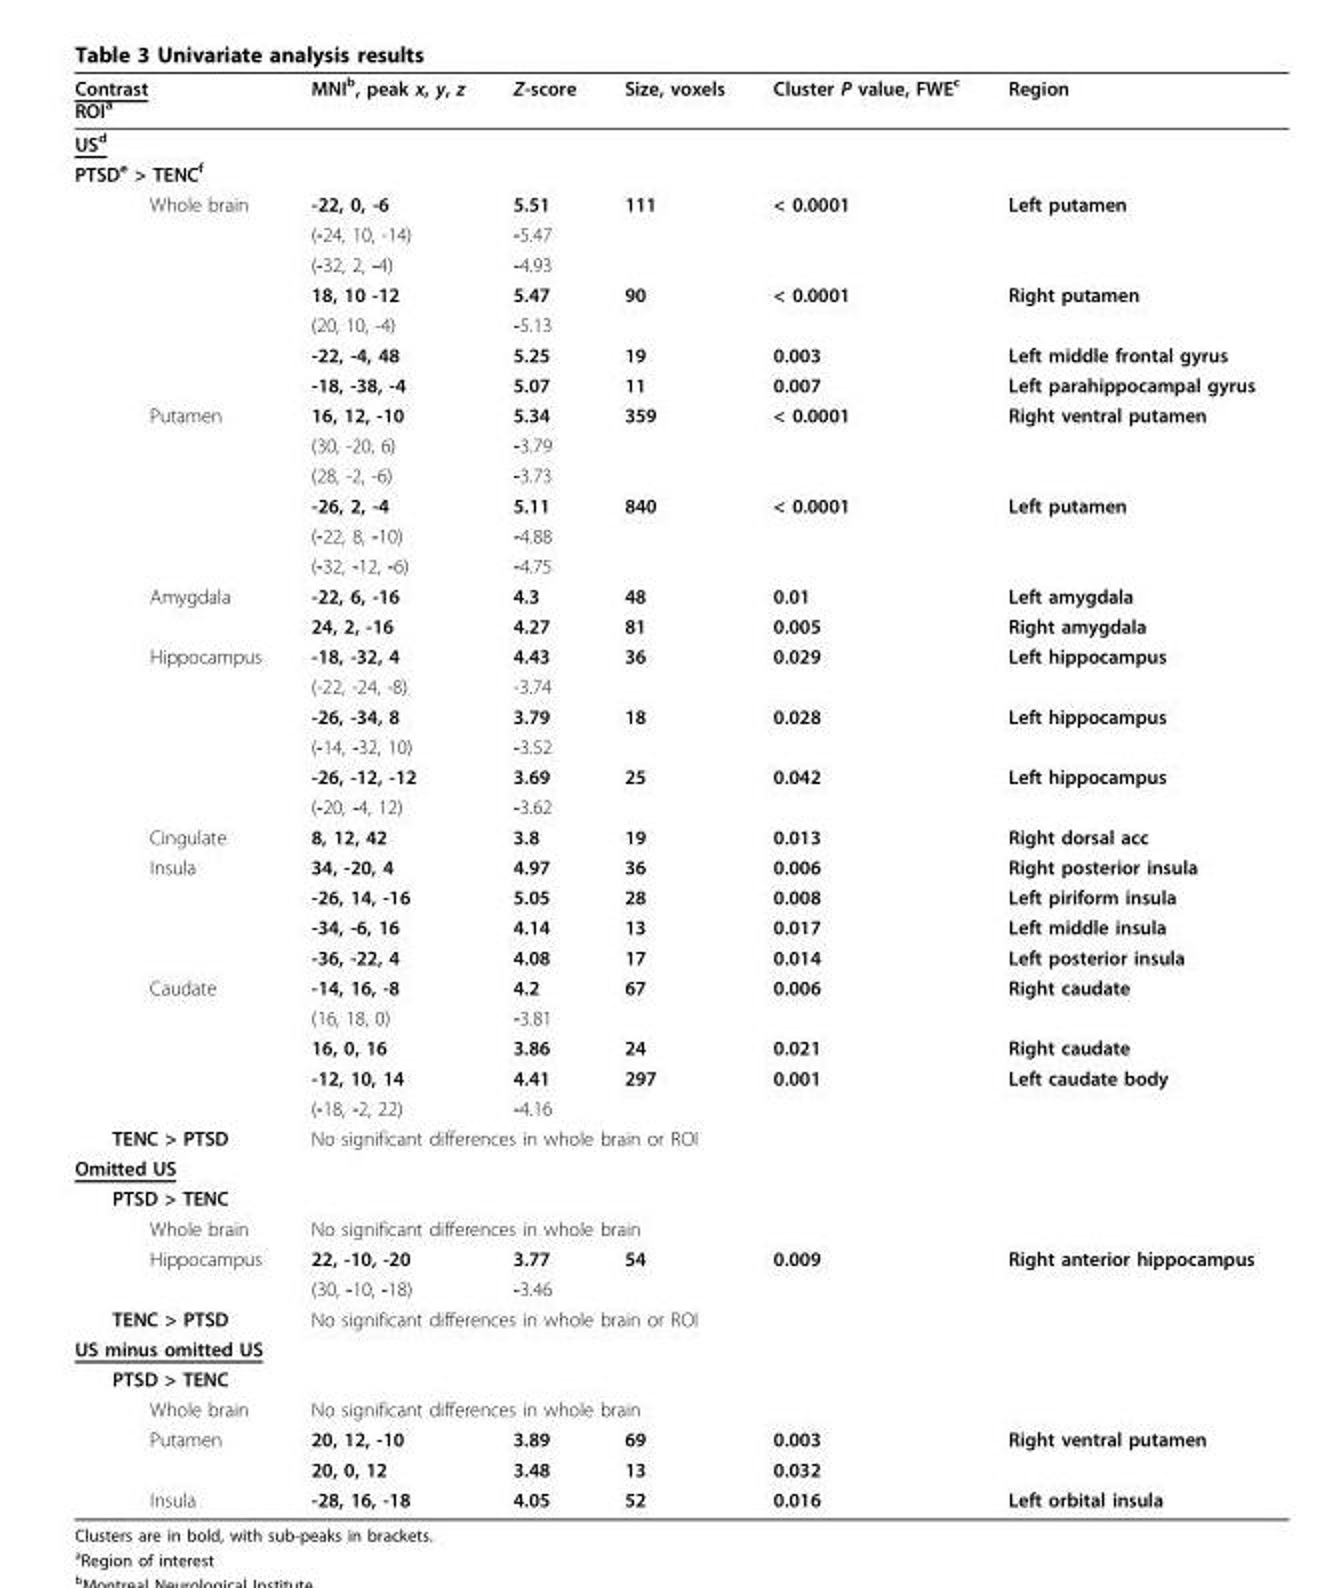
<table><thead><tr><td>Contrast ROI<sup>a</sup></td><td>MNI<sup>b</sup>, peak x, y, z</td><td>Z-score</td><td>Size, voxels</td><td>Cluster P value, FWE<sup>c</sup></td><td>Region</td></tr></thead><tbody><tr><td colspan="6">US<sup>d</sup></td></tr><tr><td colspan="6">PTSD<sup>e</sup> &gt; TENC<sup>f</sup></td></tr><tr><td rowspan="7">Whole brain</td><td>-22, 0, -6</td><td>5.51</td><td>111</td><td>&lt; 0.0001</td><td>Left putamen</td></tr><tr><td>(-24, 10, -14)</td><td>-5.47</td><td></td><td></td><td></td></tr><tr><td>(-32, 2, -4)</td><td>-4.93</td><td></td><td></td><td></td></tr><tr><td>18, 10 -12</td><td>5.47</td><td>90</td><td>&lt; 0.0001</td><td>Right putamen</td></tr><tr><td>(20, 10, -4)</td><td>-5.13</td><td></td><td></td><td></td></tr><tr><td>-22, -4, 48</td><td>5.25</td><td>19</td><td>0.003</td><td>Left middle frontal gyrus</td></tr><tr><td>-18, -38, -4</td><td>5.07</td><td>11</td><td>0.007</td><td>Left parahippocampal gyrus</td></tr><tr><td rowspan="6">Putamen</td><td>16, 12, -10</td><td>5.34</td><td>359</td><td>&lt; 0.0001</td><td>Right ventral putamen</td></tr><tr><td>(30, -20, 6)</td><td>-3.79</td><td></td><td></td><td></td></tr><tr><td>(28, -2, -6)</td><td>-3.73</td><td></td><td></td><td></td></tr><tr><td>-26, 2, -4</td><td>5.11</td><td>840</td><td>&lt; 0.0001</td><td>Left putamen</td></tr><tr><td>(-22, 8, -10)</td><td>-4.88</td><td></td><td></td><td></td></tr><tr><td>(-32, -12, -6)</td><td>-4.75</td><td></td><td></td><td></td></tr><tr><td rowspan="2">Amygdala</td><td>-22, 6, -16</td><td>4.3</td><td>48</td><td>0.01</td><td>Left amygdala</td></tr><tr><td>24, 2, -16</td><td>4.27</td><td>81</td><td>0.005</td><td>Right amygdala</td></tr><tr><td rowspan="6">Hippocampus</td><td>-18, -32, 4</td><td>4.43</td><td>36</td><td>0.029</td><td>Left hippocampus</td></tr><tr><td>(-22, -24, -8)</td><td>-3.74</td><td></td><td></td><td></td></tr><tr><td>-26, -34, 8</td><td>3.79</td><td>18</td><td>0.028</td><td>Left hippocampus</td></tr><tr><td>(-14, -32, 10)</td><td>-3.52</td><td></td><td></td><td></td></tr><tr><td>-26, -12, -12</td><td>3.69</td><td>25</td><td>0.042</td><td>Left hippocampus</td></tr><tr><td>(-20, -4, 12)</td><td>-3.62</td><td></td><td></td><td></td></tr><tr><td>Cingulate</td><td>8, 12, 42</td><td>3.8</td><td>19</td><td>0.013</td><td>Right dorsal acc</td></tr><tr><td rowspan="4">Insula</td><td>34, -20, 4</td><td>4.97</td><td>36</td><td>0.006</td><td>Right posterior insula</td></tr><tr><td>-26, 14, -16</td><td>5.05</td><td>28</td><td>0.008</td><td>Left piriform insula</td></tr><tr><td>-34, -6, 16</td><td>4.14</td><td>13</td><td>0.017</td><td>Left middle insula</td></tr><tr><td>-36, -22, 4</td><td>4.08</td><td>17</td><td>0.014</td><td>Left posterior insula</td></tr><tr><td rowspan="5">Caudate</td><td>-14, 16, -8</td><td>4.2</td><td>67</td><td>0.006</td><td>Right caudate</td></tr><tr><td>(16, 18, 0)</td><td>-3.81</td><td></td><td></td><td></td></tr><tr><td>16, 0, 16</td><td>3.86</td><td>24</td><td>0.021</td><td>Right caudate</td></tr><tr><td>-12, 10, 14</td><td>4.41</td><td>297</td><td>0.001</td><td>Left caudate body</td></tr><tr><td>(-18, -2, 22)</td><td>-4.16</td><td></td><td></td><td></td></tr><tr><td>TENC &gt; PTSD</td><td colspan="4">No significant differences in whole brain or ROI</td><td></td></tr><tr><td colspan="6">Omitted US</td></tr><tr><td colspan="6">PTSD &gt; TENC</td></tr><tr><td>Whole brain</td><td colspan="4">No significant differences in whole brain</td><td></td></tr><tr><td rowspan="2">Hippocampus</td><td>22, -10, -20</td><td>3.77</td><td>54</td><td>0.009</td><td>Right anterior hippocampus</td></tr><tr><td>(30, -10, -18)</td><td>-3.46</td><td></td><td></td><td></td></tr><tr><td>TENC &gt; PTSD</td><td colspan="4">No significant differences in whole brain or ROI</td><td></td></tr><tr><td colspan="6">US minus omitted US</td></tr><tr><td colspan="6">PTSD &gt; TENC</td></tr><tr><td>Whole brain</td><td colspan="4">No significant differences in whole brain</td><td></td></tr><tr><td rowspan="2">Putamen</td><td>20, 12, -10</td><td>3.89</td><td>69</td><td>0.003</td><td>Right ventral putamen</td></tr><tr><td>20, 0, 12</td><td>3.48</td><td>13</td><td>0.032</td><td></td></tr><tr><td>Insula</td><td>-28, 16, -18</td><td>4.05</td><td>52</td><td>0.016</td><td>Left orbital insula</td></tr></tbody></table>